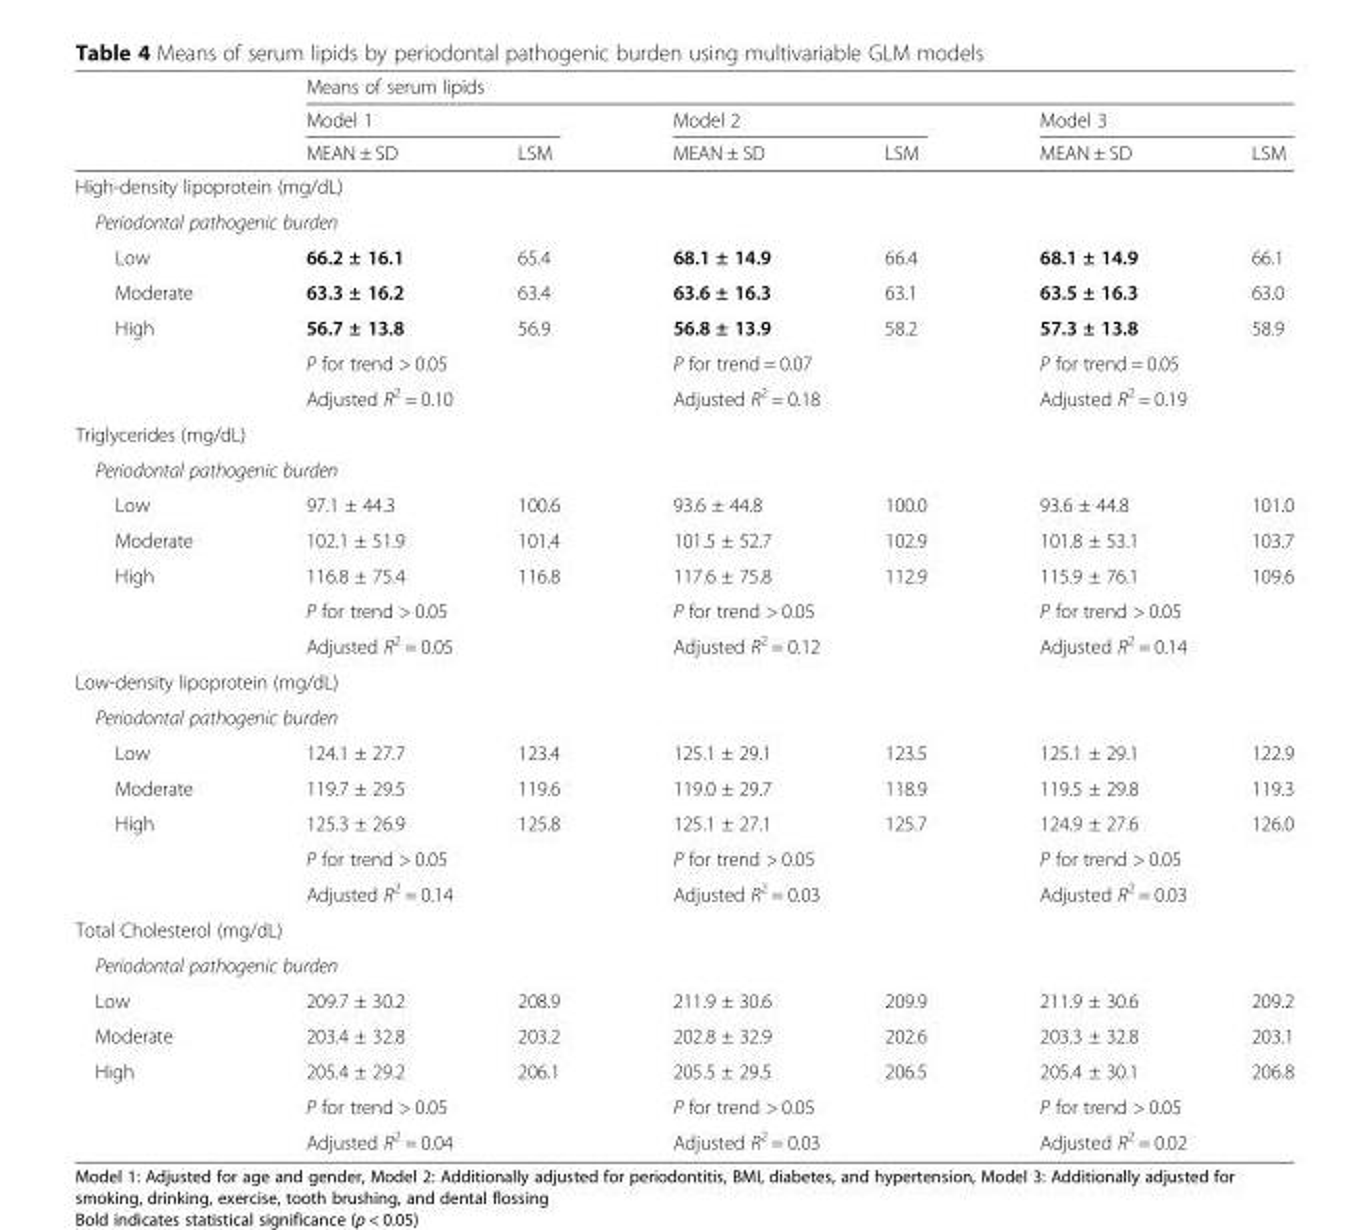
<table><thead><tr><td rowspan="3"></td><td colspan="6">Means of serum lipids</td></tr><tr><td colspan="2">Model 1</td><td colspan="2">Model 2</td><td colspan="2">Model 3</td></tr><tr><td>MEAN ± SD</td><td>LSM</td><td>MEAN ± SD</td><td>LSM</td><td>MEAN ± SD</td><td>LSM</td></tr></thead><tbody><tr><td colspan="7">High-density lipoprotein (mg/dL)</td></tr><tr><td colspan="7">Periodontal pathogenic burden</td></tr><tr><td>Low</td><td>66.2 ± 16.1</td><td>65.4</td><td>68.1 ± 14.9</td><td>66.4</td><td>68.1 ± 14.9</td><td>66.1</td></tr><tr><td>Moderate</td><td>63.3 ± 16.2</td><td>63.4</td><td>63.6 ± 16.3</td><td>63.1</td><td>63.5 ± 16.3</td><td>63.0</td></tr><tr><td rowspan="3">High</td><td>56.7 ± 13.8</td><td>56.9</td><td>56.8 ± 13.9</td><td>58.2</td><td>57.3 ± 13.8</td><td>58.9</td></tr><tr><td colspan="2">P for trend &gt; 0.05</td><td colspan="2">P for trend = 0.07</td><td colspan="2">P for trend = 0.05</td></tr><tr><td colspan="2">Adjusted R<sup>2</sup> = 0.10</td><td colspan="2">Adjusted R<sup>2</sup> = 0.18</td><td colspan="2">Adjusted R<sup>2</sup> = 0.19</td></tr><tr><td colspan="7">Triglycerides (mg/dL)</td></tr><tr><td colspan="7">Periodontal pathogenic burden</td></tr><tr><td>Low</td><td>97.1 ± 44.3</td><td>100.6</td><td>93.6 ± 44.8</td><td>100.0</td><td>93.6 ± 44.8</td><td>101.0</td></tr><tr><td>Moderate</td><td>102.1 ± 51.9</td><td>101.4</td><td>101.5 ± 52.7</td><td>102.9</td><td>101.8 ± 53.1</td><td>103.7</td></tr><tr><td rowspan="3">High</td><td>116.8 ± 75.4</td><td>116.8</td><td>117.6 ± 75.8</td><td>112.9</td><td>115.9 ± 76.1</td><td>109.6</td></tr><tr><td colspan="2">P for trend &gt; 0.05</td><td colspan="2">P for trend &gt; 0.05</td><td colspan="2">P for trend &gt; 0.05</td></tr><tr><td colspan="2">Adjusted R<sup>2</sup> = 0.05</td><td colspan="2">Adjusted R<sup>2</sup> = 0.12</td><td colspan="2">Adjusted R<sup>2</sup> = 0.14</td></tr><tr><td colspan="7">Low-density lipoprotein (mg/dL)</td></tr><tr><td colspan="7">Periodontal pathogenic burden</td></tr><tr><td>Low</td><td>124.1 ± 27.7</td><td>123.4</td><td>125.1 ± 29.1</td><td>123.5</td><td>125.1 ± 29.1</td><td>122.9</td></tr><tr><td>Moderate</td><td>119.7 ± 29.5</td><td>119.6</td><td>119.0 ± 29.7</td><td>118.9</td><td>119.5 ± 29.8</td><td>119.3</td></tr><tr><td rowspan="3">High</td><td>125.3 ± 26.9</td><td>125.8</td><td>125.1 ± 27.1</td><td>125.7</td><td>124.9 ± 27.6</td><td>126.0</td></tr><tr><td colspan="2">P for trend &gt; 0.05</td><td colspan="2">P for trend &gt; 0.05</td><td colspan="2">P for trend &gt; 0.05</td></tr><tr><td colspan="2">Adjusted R<sup>2</sup> = 0.14</td><td colspan="2">Adjusted R<sup>2</sup> = 0.03</td><td colspan="2">Adjusted R<sup>2</sup> = 0.03</td></tr><tr><td colspan="7">Total Cholesterol (mg/dL)</td></tr><tr><td colspan="7">Periodontal pathogenic burden</td></tr><tr><td>Low</td><td>209.7 ± 30.2</td><td>208.9</td><td>211.9 ± 30.6</td><td>209.9</td><td>211.9 ± 30.6</td><td>209.2</td></tr><tr><td>Moderate</td><td>203.4 ± 32.8</td><td>203.2</td><td>202.8 ± 32.9</td><td>202.6</td><td>203.3 ± 32.8</td><td>203.1</td></tr><tr><td rowspan="3">High</td><td>205.4 ± 29.2</td><td>206.1</td><td>205.5 ± 29.5</td><td>206.5</td><td>205.4 ± 30.1</td><td>206.8</td></tr><tr><td colspan="2">P for trend &gt; 0.05</td><td colspan="2">P for trend &gt; 0.05</td><td colspan="2">P for trend &gt; 0.05</td></tr><tr><td colspan="2">Adjusted R<sup>2</sup> = 0.04</td><td colspan="2">Adjusted R<sup>2</sup> = 0.03</td><td colspan="2">Adjusted R<sup>2</sup> = 0.02</td></tr></tbody></table>